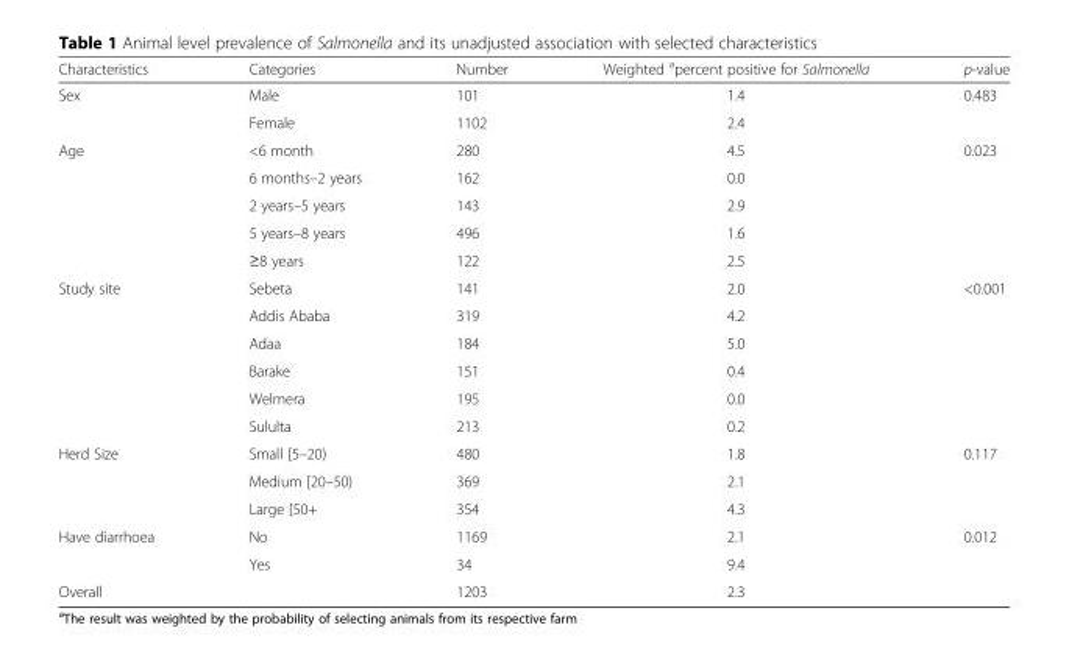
<table><thead><tr><td>Characteristics</td><td>Categories</td><td>Number</td><td>Weighted <sup>a</sup>percent positive for Salmonella</td><td>p-value</td></tr></thead><tbody><tr><td rowspan="2">Sex</td><td>Male</td><td>101</td><td>1.4</td><td>0.483</td></tr><tr><td>Female</td><td>1102</td><td>2.4</td><td></td></tr><tr><td rowspan="5">Age</td><td>&lt;6 month</td><td>280</td><td>4.5</td><td>0.023</td></tr><tr><td>6 months–2 years</td><td>162</td><td>0.0</td><td></td></tr><tr><td>2 years–5 years</td><td>143</td><td>2.9</td><td></td></tr><tr><td>5 years–8 years</td><td>496</td><td>1.6</td><td></td></tr><tr><td>≥8 years</td><td>122</td><td>2.5</td><td></td></tr><tr><td rowspan="6">Study site</td><td>Sebeta</td><td>141</td><td>2.0</td><td>&lt;0.001</td></tr><tr><td>Addis Ababa</td><td>319</td><td>4.2</td><td></td></tr><tr><td>Adaa</td><td>184</td><td>5.0</td><td></td></tr><tr><td>Barake</td><td>151</td><td>0.4</td><td></td></tr><tr><td>Welmera</td><td>195</td><td>0.0</td><td></td></tr><tr><td>Sululta</td><td>213</td><td>0.2</td><td></td></tr><tr><td rowspan="3">Herd Size</td><td>Small [5–20)</td><td>480</td><td>1.8</td><td>0.117</td></tr><tr><td>Medium [20–50)</td><td>369</td><td>2.1</td><td></td></tr><tr><td>Large [50+</td><td>354</td><td>4.3</td><td></td></tr><tr><td rowspan="2">Have diarrhoea</td><td>No</td><td>1169</td><td>2.1</td><td>0.012</td></tr><tr><td>Yes</td><td>34</td><td>9.4</td><td></td></tr><tr><td>Overall</td><td></td><td>1203</td><td>2.3</td><td></td></tr></tbody></table>